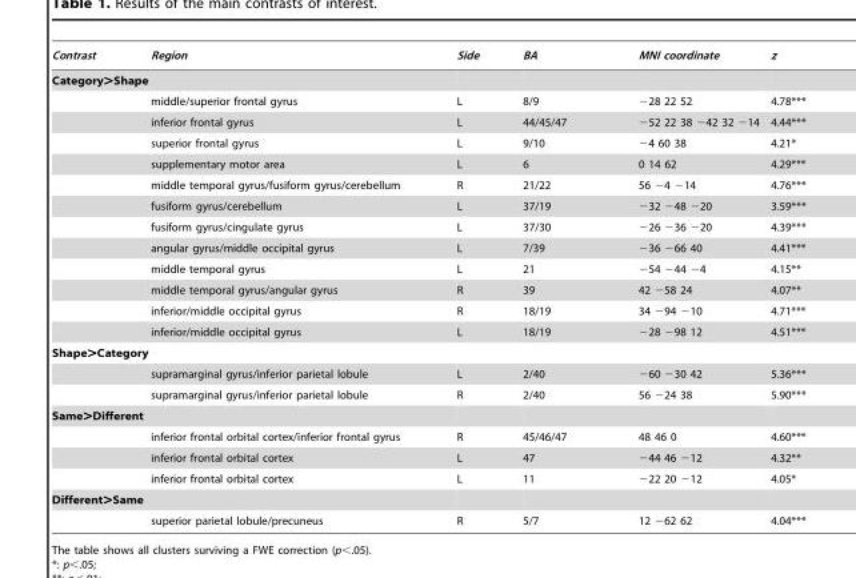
<table><thead><tr><td>Contrast</td><td>Region</td><td>Side</td><td>BA</td><td>MNI coordinate</td><td>z</td></tr></thead><tbody><tr><td colspan="6">Category&gt;Shape</td></tr><tr><td></td><td>middle/superior frontal gyrus</td><td>L</td><td>8/9</td><td>−28 22 52</td><td>4.78***</td></tr><tr><td></td><td>inferior frontal gyrus</td><td>L</td><td>44/45/47</td><td>−52 22 38 −42 32 −14</td><td>4.44***</td></tr><tr><td></td><td>superior frontal gyrus</td><td>L</td><td>9/10</td><td>−4 60 38</td><td>4.21*</td></tr><tr><td></td><td>supplementary motor area</td><td>L</td><td>6</td><td>0 14 62</td><td>4.29***</td></tr><tr><td></td><td>middle temporal gyrus/fusiform gyrus/cerebellum</td><td>R</td><td>21/22</td><td>56 −4 −14</td><td>4.76***</td></tr><tr><td></td><td>fusiform gyrus/cerebellum</td><td>L</td><td>37/19</td><td>−32 −48 −20</td><td>3.59***</td></tr><tr><td></td><td>fusiform gyrus/cingulate gyrus</td><td>L</td><td>37/30</td><td>−26 −36 −20</td><td>4.39***</td></tr><tr><td></td><td>angular gyrus/middle occipital gyrus</td><td>L</td><td>7/39</td><td>−36 −66 40</td><td>4.41***</td></tr><tr><td></td><td>middle temporal gyrus</td><td>L</td><td>21</td><td>−54 −44 −4</td><td>4.15**</td></tr><tr><td></td><td>middle temporal gyrus/angular gyrus</td><td>R</td><td>39</td><td>42 −58 24</td><td>4.07**</td></tr><tr><td></td><td>inferior/middle occipital gyrus</td><td>R</td><td>18/19</td><td>34 −94 −10</td><td>4.71***</td></tr><tr><td></td><td>inferior/middle occipital gyrus</td><td>L</td><td>18/19</td><td>−28 −98 12</td><td>4.51***</td></tr><tr><td colspan="6">Shape&gt;Category</td></tr><tr><td></td><td>supramarginal gyrus/inferior parietal lobule</td><td>L</td><td>2/40</td><td>−60 −30 42</td><td>5.36***</td></tr><tr><td></td><td>supramarginal gyrus/inferior parietal lobule</td><td>R</td><td>2/40</td><td>56 −24 38</td><td>5.90***</td></tr><tr><td colspan="6">Same&gt;Different</td></tr><tr><td></td><td>inferior frontal orbital cortex/inferior frontal gyrus</td><td>R</td><td>45/46/47</td><td>48 46 0</td><td>4.60***</td></tr><tr><td></td><td>inferior frontal orbital cortex</td><td>L</td><td>47</td><td>−44 46 −12</td><td>4.32**</td></tr><tr><td></td><td>inferior frontal orbital cortex</td><td>L</td><td>11</td><td>−22 20 −12</td><td>4.05*</td></tr><tr><td colspan="6">Different&gt;Same</td></tr><tr><td></td><td>superior parietal lobule/precuneus</td><td>R</td><td>5/7</td><td>12 −62 62</td><td>4.04***</td></tr></tbody></table>